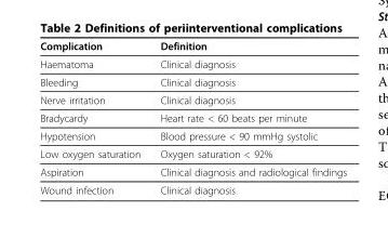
<table><thead><tr><td>Complication</td><td>Definition</td></tr></thead><tbody><tr><td>Haematoma</td><td>Clinical diagnosis</td></tr><tr><td>Bleeding</td><td>Clinical diagnosis</td></tr><tr><td>Nerve irritation</td><td>Clinical diagnosis</td></tr><tr><td>Bradycardy</td><td>Heart rate &lt; 60 beats per minute</td></tr><tr><td>Hypotension</td><td>Blood pressure &lt; 90 mmHg systolic</td></tr><tr><td>Low oxygen saturation</td><td>Oxygen saturation &lt; 92%</td></tr><tr><td>Aspiration</td><td>Clinical diagnosis and radiological findings</td></tr><tr><td>Wound infection</td><td>Clinical diagnosis</td></tr></tbody></table>